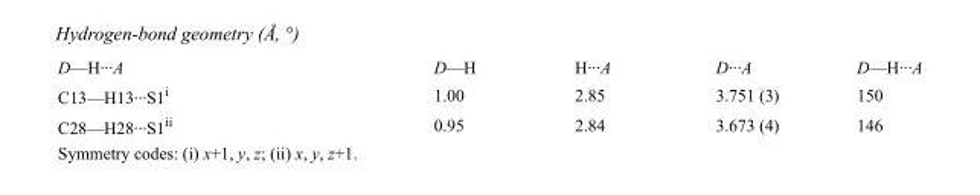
<table><tbody><tr><td>D—H···A</td><td>D—H</td><td>H···A</td><td>D···A</td><td>D—H···A</td></tr><tr><td>C13—H13···S1<sup>i</sup></td><td>1.00</td><td>2.85</td><td>3.751 (3)</td><td>150</td></tr><tr><td>C28—H28···S1<sup>ii</sup></td><td>0.95</td><td>2.84</td><td>3.673 (4)</td><td>146</td></tr></tbody></table>